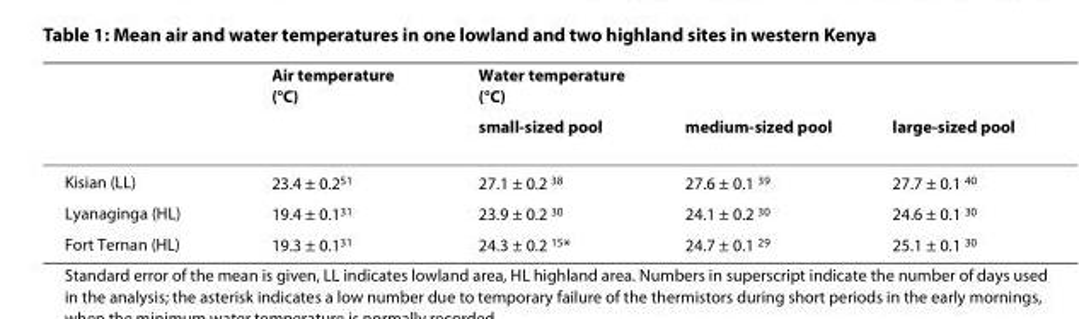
<table><thead><tr><td rowspan="2"></td><td rowspan="2">Air temperature (°C)</td><td colspan="3">Water temperature (°C)</td></tr><tr><td>small-sized pool</td><td>medium-sized pool</td><td>large-sized pool</td></tr></thead><tbody><tr><td>Kisian (LL)</td><td>23.4 ± 0.2<sup>51</sup></td><td>27.1 ± 0.2 <sup>38</sup></td><td>27.6 ± 0.1 <sup>39</sup></td><td>27.7 ± 0.1 <sup>40</sup></td></tr><tr><td>Lyanaginga (HL)</td><td>19.4 ± 0.1<sup>31</sup></td><td>23.9 ± 0.2 <sup>30</sup></td><td>24.1 ± 0.2 <sup>30</sup></td><td>24.6 ± 0.1 <sup>30</sup></td></tr><tr><td>Fort Ternan (HL)</td><td>19.3 ± 0.1<sup>31</sup></td><td>24.3 ± 0.2 <sup>15</sup>*</td><td>24.7 ± 0.1 <sup>29</sup></td><td>25.1 ± 0.1 <sup>30</sup></td></tr></tbody></table>